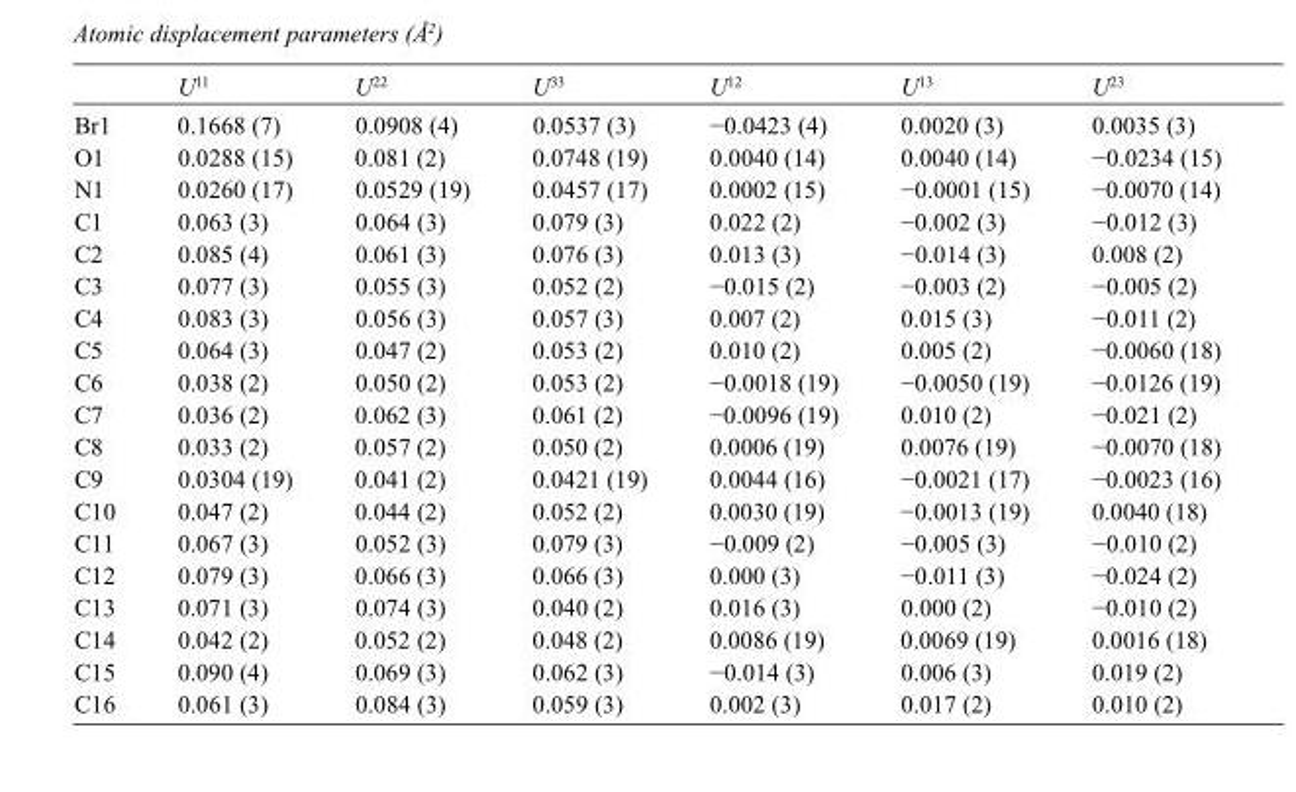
<table><thead><tr><td></td><td>U<sup>11</sup></td><td>U<sup>22</sup></td><td>U<sup>33</sup></td><td>U<sup>12</sup></td><td>U<sup>13</sup></td><td>U<sup>23</sup></td></tr></thead><tbody><tr><td>Br1</td><td>0.1668 (7)</td><td>0.0908 (4)</td><td>0.0537 (3)</td><td>−0.0423 (4)</td><td>0.0020 (3)</td><td>0.0035 (3)</td></tr><tr><td>O1</td><td>0.0288 (15)</td><td>0.081 (2)</td><td>0.0748 (19)</td><td>0.0040 (14)</td><td>0.0040 (14)</td><td>−0.0234 (15)</td></tr><tr><td>N1</td><td>0.0260 (17)</td><td>0.0529 (19)</td><td>0.0457 (17)</td><td>0.0002 (15)</td><td>−0.0001 (15)</td><td>−0.0070 (14)</td></tr><tr><td>C1</td><td>0.063 (3)</td><td>0.064 (3)</td><td>0.079 (3)</td><td>0.022 (2)</td><td>−0.002 (3)</td><td>−0.012 (3)</td></tr><tr><td>C2</td><td>0.085 (4)</td><td>0.061 (3)</td><td>0.076 (3)</td><td>0.013 (3)</td><td>−0.014 (3)</td><td>0.008 (2)</td></tr><tr><td>C3</td><td>0.077 (3)</td><td>0.055 (3)</td><td>0.052 (2)</td><td>−0.015 (2)</td><td>−0.003 (2)</td><td>−0.005 (2)</td></tr><tr><td>C4</td><td>0.083 (3)</td><td>0.056 (3)</td><td>0.057 (3)</td><td>0.007 (2)</td><td>0.015 (3)</td><td>−0.011 (2)</td></tr><tr><td>C5</td><td>0.064 (3)</td><td>0.047 (2)</td><td>0.053 (2)</td><td>0.010 (2)</td><td>0.005 (2)</td><td>−0.0060 (18)</td></tr><tr><td>C6</td><td>0.038 (2)</td><td>0.050 (2)</td><td>0.053 (2)</td><td>−0.0018 (19)</td><td>−0.0050 (19)</td><td>−0.0126 (19)</td></tr><tr><td>C7</td><td>0.036 (2)</td><td>0.062 (3)</td><td>0.061 (2)</td><td>−0.0096 (19)</td><td>0.010 (2)</td><td>−0.021 (2)</td></tr><tr><td>C8</td><td>0.033 (2)</td><td>0.057 (2)</td><td>0.050 (2)</td><td>0.0006 (19)</td><td>0.0076 (19)</td><td>−0.0070 (18)</td></tr><tr><td>C9</td><td>0.0304 (19)</td><td>0.041 (2)</td><td>0.0421 (19)</td><td>0.0044 (16)</td><td>−0.0021 (17)</td><td>−0.0023 (16)</td></tr><tr><td>C10</td><td>0.047 (2)</td><td>0.044 (2)</td><td>0.052 (2)</td><td>0.0030 (19)</td><td>−0.0013 (19)</td><td>0.0040 (18)</td></tr><tr><td>C11</td><td>0.067 (3)</td><td>0.052 (3)</td><td>0.079 (3)</td><td>−0.009 (2)</td><td>−0.005 (3)</td><td>−0.010 (2)</td></tr><tr><td>C12</td><td>0.079 (3)</td><td>0.066 (3)</td><td>0.066 (3)</td><td>0.000 (3)</td><td>−0.011 (3)</td><td>−0.024 (2)</td></tr><tr><td>C13</td><td>0.071 (3)</td><td>0.074 (3)</td><td>0.040 (2)</td><td>0.016 (3)</td><td>0.000 (2)</td><td>−0.010 (2)</td></tr><tr><td>C14</td><td>0.042 (2)</td><td>0.052 (2)</td><td>0.048 (2)</td><td>0.0086 (19)</td><td>0.0069 (19)</td><td>0.0016 (18)</td></tr><tr><td>C15</td><td>0.090 (4)</td><td>0.069 (3)</td><td>0.062 (3)</td><td>−0.014 (3)</td><td>0.006 (3)</td><td>0.019 (2)</td></tr><tr><td>C16</td><td>0.061 (3)</td><td>0.084 (3)</td><td>0.059 (3)</td><td>0.002 (3)</td><td>0.017 (2)</td><td>0.010 (2)</td></tr></tbody></table>